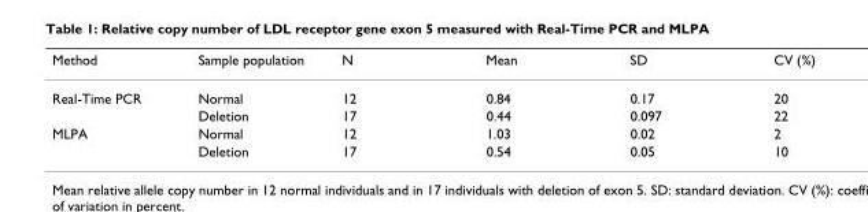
<table><thead><tr><td>Method</td><td>Sample population</td><td>N</td><td>Mean</td><td>SD</td><td>CV (%)</td></tr></thead><tbody><tr><td rowspan="2">Real-Time PCR</td><td>Normal</td><td>12</td><td>0.84</td><td>0.17</td><td>20</td></tr><tr><td>Deletion</td><td>17</td><td>0.44</td><td>0.097</td><td>22</td></tr><tr><td rowspan="2">MLPA</td><td>Normal</td><td>12</td><td>1.03</td><td>0.02</td><td>2</td></tr><tr><td>Deletion</td><td>17</td><td>0.54</td><td>0.05</td><td>10</td></tr></tbody></table>